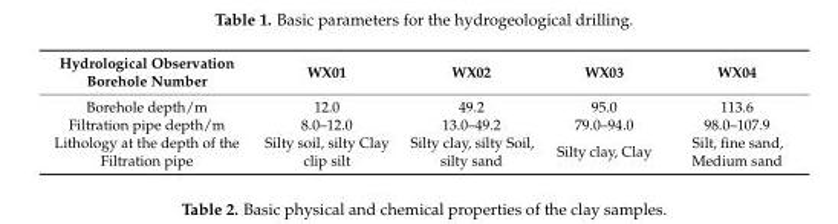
<table><thead><tr><td>Hydrological Observation Borehole Number</td><td>WX01</td><td>WX02</td><td>WX03</td><td>WX04</td></tr></thead><tbody><tr><td>Borehole depth/m</td><td>12.0</td><td>49.2</td><td>95.0</td><td>113.6</td></tr><tr><td>Filtration pipe depth/m</td><td>8.0–12.0</td><td>13.0–49.2</td><td>79.0–94.0</td><td>98.0–107.9</td></tr><tr><td>Lithology at the depth of the Filtration pipe</td><td>Silty soil, silty Clay clip silt</td><td>Silty clay, silty Soil, silty sand</td><td>Silty clay, Clay</td><td>Silt, fine sand, Medium sand</td></tr></tbody></table>